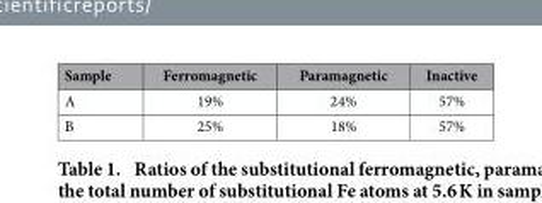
<table><thead><tr><td>Sample</td><td>Ferromagnetic</td><td>Paramagnetic</td><td>Inactive</td></tr></thead><tbody><tr><td>A</td><td>19%</td><td>24%</td><td>57%</td></tr><tr><td>B</td><td>25%</td><td>18%</td><td>57%</td></tr></tbody></table>